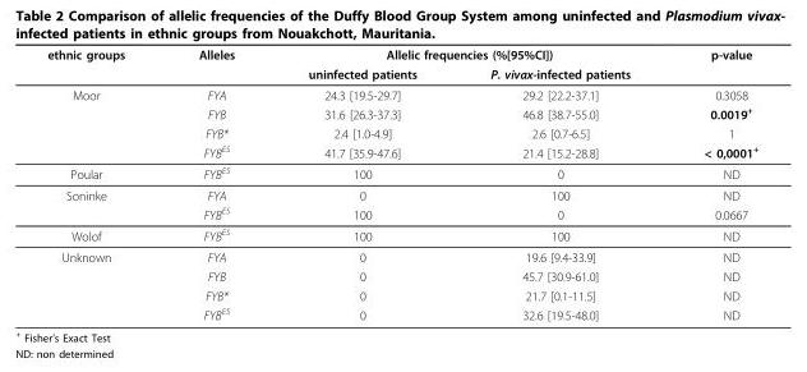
<table><thead><tr><td rowspan="2">ethnic groups</td><td rowspan="2">Alleles</td><td colspan="2">Allelic frequencies (%[95%CI])</td><td rowspan="2">p-value</td></tr><tr><td>uninfected patients</td><td>P. vivax-infected patients</td></tr></thead><tbody><tr><td rowspan="4">Moor</td><td>FYA</td><td>24.3 [19.5-29.7]</td><td>29.2 [22.2-37.1]</td><td>0.3058</td></tr><tr><td>FYB</td><td>31.6 [26.3-37.3]</td><td>46.8 [38.7-55.0]</td><td>0.0019<sup>+</sup></td></tr><tr><td>FYB*</td><td>2.4 [1.0-4.9]</td><td>2.6 [0.7-6.5]</td><td>1</td></tr><tr><td>FYB<sup>ES</sup></td><td>41.7 [35.9-47.6]</td><td>21.4 [15.2-28.8]</td><td>&lt; 0,0001<sup>+</sup></td></tr><tr><td>Poular</td><td>FYB<sup>ES</sup></td><td>100</td><td>0</td><td>ND</td></tr><tr><td rowspan="2">Soninke</td><td>FYA</td><td>0</td><td>100</td><td>ND</td></tr><tr><td>FYB<sup>ES</sup></td><td>100</td><td>0</td><td>0.0667</td></tr><tr><td>Wolof</td><td>FYB<sup>ES</sup></td><td>100</td><td>100</td><td>ND</td></tr><tr><td rowspan="4">Unknown</td><td>FYA</td><td>0</td><td>19.6 [9.4-33.9]</td><td>ND</td></tr><tr><td>FYB</td><td>0</td><td>45.7 [30.9-61.0]</td><td>ND</td></tr><tr><td>FYB*</td><td>0</td><td>21.7 [0.1-11.5]</td><td>ND</td></tr><tr><td>FYB<sup>ES</sup></td><td>0</td><td>32.6 [19.5-48.0]</td><td>ND</td></tr></tbody></table>